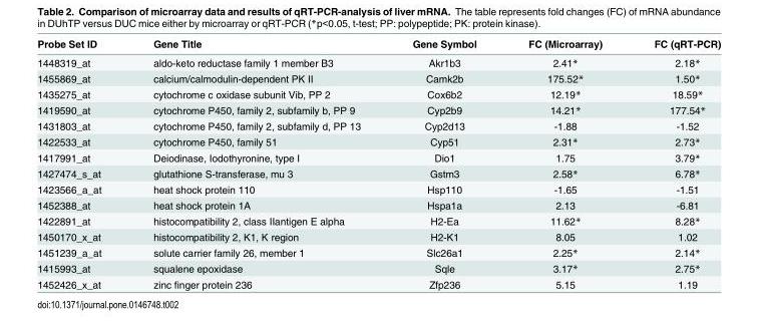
<table><thead><tr><td>Probe Set ID</td><td>Gene Title</td><td>Gene Symbol</td><td>FC (Microarray)</td><td>FC (qRT-PCR)</td></tr></thead><tbody><tr><td>1448319_at</td><td>aldo-keto reductase family 1 member B3</td><td>Akr1b3</td><td>2.41*</td><td>2.18*</td></tr><tr><td>1455869_at</td><td>calcium/calmodulin-dependent PK II</td><td>Camk2b</td><td>175.52*</td><td>1.50*</td></tr><tr><td>1435275_at</td><td>cytochrome c oxidase subunit Vib, PP 2</td><td>Cox6b2</td><td>12.19*</td><td>18.59*</td></tr><tr><td>1419590_at</td><td>cytochrome P450, family 2, subfamily b, PP 9</td><td>Cyp2b9</td><td>14.21*</td><td>177.54*</td></tr><tr><td>1431803_at</td><td>cytochrome P450, family 2, subfamily d, PP 13</td><td>Cyp2d13</td><td>-1.88</td><td>-1.52</td></tr><tr><td>1422533_at</td><td>cytochrome P450, family 51</td><td>Cyp51</td><td>2.31*</td><td>2.73*</td></tr><tr><td>1417991_at</td><td>Deiodinase, Iodothyronine, type I</td><td>Dio1</td><td>1.75</td><td>3.79*</td></tr><tr><td>1427474_s_at</td><td>glutathione S-transferase, mu 3</td><td>Gstm3</td><td>2.58*</td><td>6.78*</td></tr><tr><td>1423566_a_at</td><td>heat shock protein 110</td><td>Hsp110</td><td>-1.65</td><td>-1.51</td></tr><tr><td>1452388_at</td><td>heat shock protein 1A</td><td>Hspa1a</td><td>2.13</td><td>-6.81</td></tr><tr><td>1422891_at</td><td>histocompatibility 2, class IIantigen E alpha</td><td>H2-Ea</td><td>11.62*</td><td>8.28*</td></tr><tr><td>1450170_x_at</td><td>histocompatibility 2, K1, K region</td><td>H2-K1</td><td>8.05</td><td>1.02</td></tr><tr><td>1451239_a_at</td><td>solute carrier family 26, member 1</td><td>Slc26a1</td><td>2.25*</td><td>2.14*</td></tr><tr><td>1415993_at</td><td>squalene epoxidase</td><td>Sqle</td><td>3.17*</td><td>2.75*</td></tr><tr><td>1452426_x_at</td><td>zinc finger protein 236</td><td>Zfp236</td><td>5.15</td><td>1.19</td></tr></tbody></table>